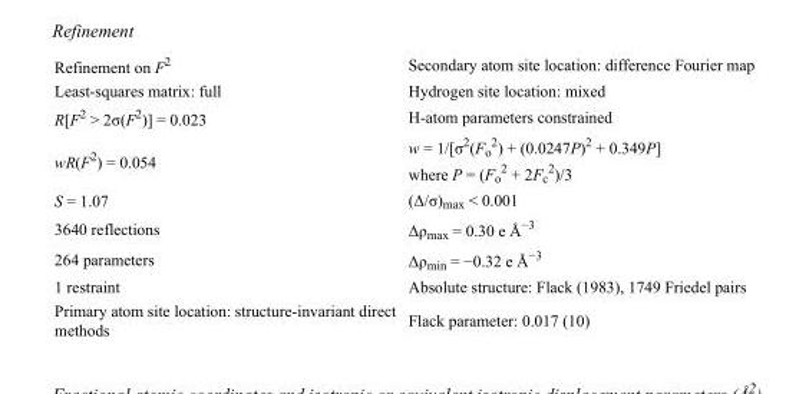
<table><tbody><tr><td>Refinement on F<sup>2</sup></td><td>Secondary atom site location: difference Fourier map</td></tr><tr><td>Least-squares matrix: full</td><td>Hydrogen site location: mixed</td></tr><tr><td>R[F<sup>2</sup> &gt; 2σ(F<sup>2</sup>)] = 0.023</td><td>H-atom parameters constrained</td></tr><tr><td>wR(F<sup>2</sup>) = 0.054</td><td>w = 1/[σ<sup>2</sup>(F<sub>o</sub> <sup>2</sup>) + (0.0247P)<sup>2</sup> + 0.349P] where P = (F<sub>o</sub> <sup>2</sup> + 2F<sub>c</sub> <sup>2</sup>)/3</td></tr><tr><td>S = 1.07</td><td>(Δ/σ)<sub>max</sub> &lt; 0.001</td></tr><tr><td>3640 reflections</td><td>Δρ<sub>max</sub> = 0.30 e Å<sup>−3</sup></td></tr><tr><td>264 parameters</td><td>Δρ<sub>min</sub> = −0.32 e Å<sup>−3</sup></td></tr><tr><td>1 restraint</td><td>Absolute structure: Flack (1983), 1749 Friedel pairs</td></tr><tr><td>Primary atom site location: structure-invariant direct methods</td><td>Flack parameter: 0.017 (10)</td></tr></tbody></table>